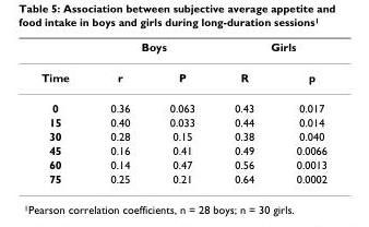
<table><thead><tr><td rowspan="2">Time</td><td colspan="2">Boys</td><td colspan="2">Girls</td></tr><tr><td>r</td><td>P</td><td>R</td><td>p</td></tr></thead><tbody><tr><td>0</td><td>0.36</td><td>0.063</td><td>0.43</td><td>0.017</td></tr><tr><td>15</td><td>0.40</td><td>0.033</td><td>0.44</td><td>0.014</td></tr><tr><td>30</td><td>0.28</td><td>0.15</td><td>0.38</td><td>0.040</td></tr><tr><td>45</td><td>0.16</td><td>0.41</td><td>0.49</td><td>0.0066</td></tr><tr><td>60</td><td>0.14</td><td>0.47</td><td>0.56</td><td>0.0013</td></tr><tr><td>75</td><td>0.25</td><td>0.21</td><td>0.64</td><td>0.0002</td></tr></tbody></table>